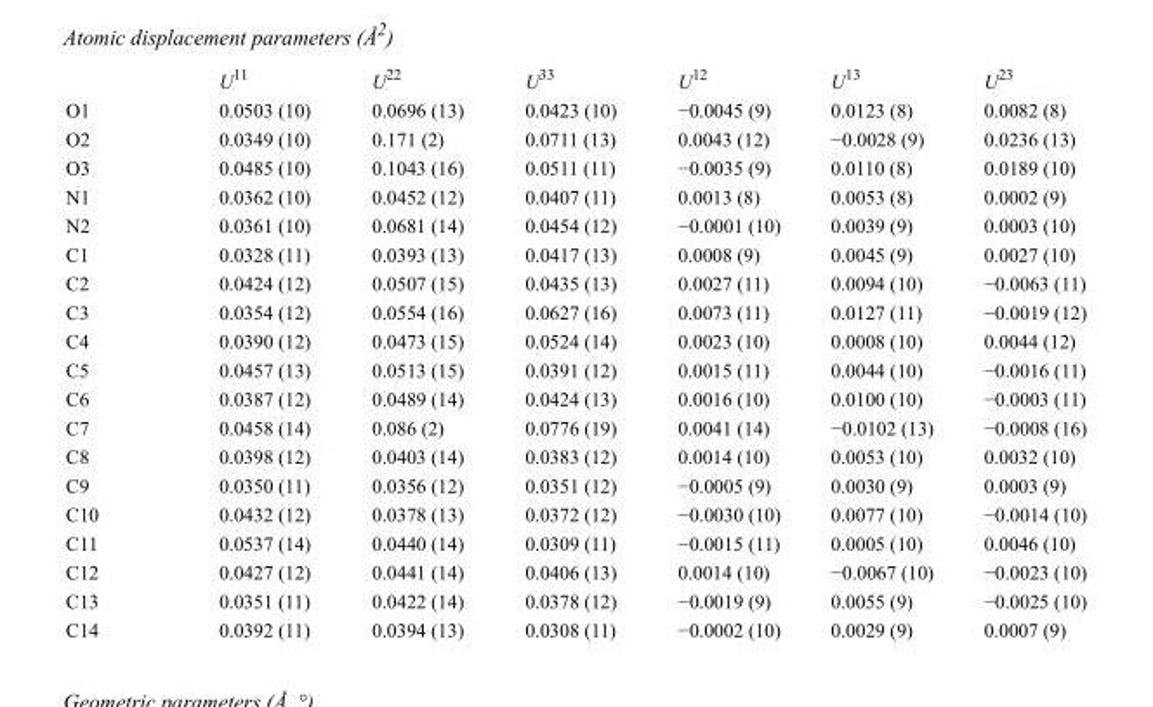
<table><thead><tr><td></td><td>U<sup>11</sup></td><td>U<sup>22</sup></td><td>U<sup>33</sup></td><td>U<sup>12</sup></td><td>U<sup>13</sup></td><td>U<sup>23</sup></td></tr></thead><tbody><tr><td>O1</td><td>0.0503 (10)</td><td>0.0696 (13)</td><td>0.0423 (10)</td><td>−0.0045 (9)</td><td>0.0123 (8)</td><td>0.0082 (8)</td></tr><tr><td>O2</td><td>0.0349 (10)</td><td>0.171 (2)</td><td>0.0711 (13)</td><td>0.0043 (12)</td><td>−0.0028 (9)</td><td>0.0236 (13)</td></tr><tr><td>O3</td><td>0.0485 (10)</td><td>0.1043 (16)</td><td>0.0511 (11)</td><td>−0.0035 (9)</td><td>0.0110 (8)</td><td>0.0189 (10)</td></tr><tr><td>N1</td><td>0.0362 (10)</td><td>0.0452 (12)</td><td>0.0407 (11)</td><td>0.0013 (8)</td><td>0.0053 (8)</td><td>0.0002 (9)</td></tr><tr><td>N2</td><td>0.0361 (10)</td><td>0.0681 (14)</td><td>0.0454 (12)</td><td>−0.0001 (10)</td><td>0.0039 (9)</td><td>0.0003 (10)</td></tr><tr><td>C1</td><td>0.0328 (11)</td><td>0.0393 (13)</td><td>0.0417 (13)</td><td>0.0008 (9)</td><td>0.0045 (9)</td><td>0.0027 (10)</td></tr><tr><td>C2</td><td>0.0424 (12)</td><td>0.0507 (15)</td><td>0.0435 (13)</td><td>0.0027 (11)</td><td>0.0094 (10)</td><td>−0.0063 (11)</td></tr><tr><td>C3</td><td>0.0354 (12)</td><td>0.0554 (16)</td><td>0.0627 (16)</td><td>0.0073 (11)</td><td>0.0127 (11)</td><td>−0.0019 (12)</td></tr><tr><td>C4</td><td>0.0390 (12)</td><td>0.0473 (15)</td><td>0.0524 (14)</td><td>0.0023 (10)</td><td>0.0008 (10)</td><td>0.0044 (12)</td></tr><tr><td>C5</td><td>0.0457 (13)</td><td>0.0513 (15)</td><td>0.0391 (12)</td><td>0.0015 (11)</td><td>0.0044 (10)</td><td>−0.0016 (11)</td></tr><tr><td>C6</td><td>0.0387 (12)</td><td>0.0489 (14)</td><td>0.0424 (13)</td><td>0.0016 (10)</td><td>0.0100 (10)</td><td>−0.0003 (11)</td></tr><tr><td>C7</td><td>0.0458 (14)</td><td>0.086 (2)</td><td>0.0776 (19)</td><td>0.0041 (14)</td><td>−0.0102 (13)</td><td>−0.0008 (16)</td></tr><tr><td>C8</td><td>0.0398 (12)</td><td>0.0403 (14)</td><td>0.0383 (12)</td><td>0.0014 (10)</td><td>0.0053 (10)</td><td>0.0032 (10)</td></tr><tr><td>C9</td><td>0.0350 (11)</td><td>0.0356 (12)</td><td>0.0351 (12)</td><td>−0.0005 (9)</td><td>0.0030 (9)</td><td>0.0003 (9)</td></tr><tr><td>C10</td><td>0.0432 (12)</td><td>0.0378 (13)</td><td>0.0372 (12)</td><td>−0.0030 (10)</td><td>0.0077 (10)</td><td>−0.0014 (10)</td></tr><tr><td>C11</td><td>0.0537 (14)</td><td>0.0440 (14)</td><td>0.0309 (11)</td><td>−0.0015 (11)</td><td>0.0005 (10)</td><td>0.0046 (10)</td></tr><tr><td>C12</td><td>0.0427 (12)</td><td>0.0441 (14)</td><td>0.0406 (13)</td><td>0.0014 (10)</td><td>−0.0067 (10)</td><td>−0.0023 (10)</td></tr><tr><td>C13</td><td>0.0351 (11)</td><td>0.0422 (14)</td><td>0.0378 (12)</td><td>−0.0019 (9)</td><td>0.0055 (9)</td><td>−0.0025 (10)</td></tr><tr><td>C14</td><td>0.0392 (11)</td><td>0.0394 (13)</td><td>0.0308 (11)</td><td>−0.0002 (10)</td><td>0.0029 (9)</td><td>0.0007 (9)</td></tr></tbody></table>